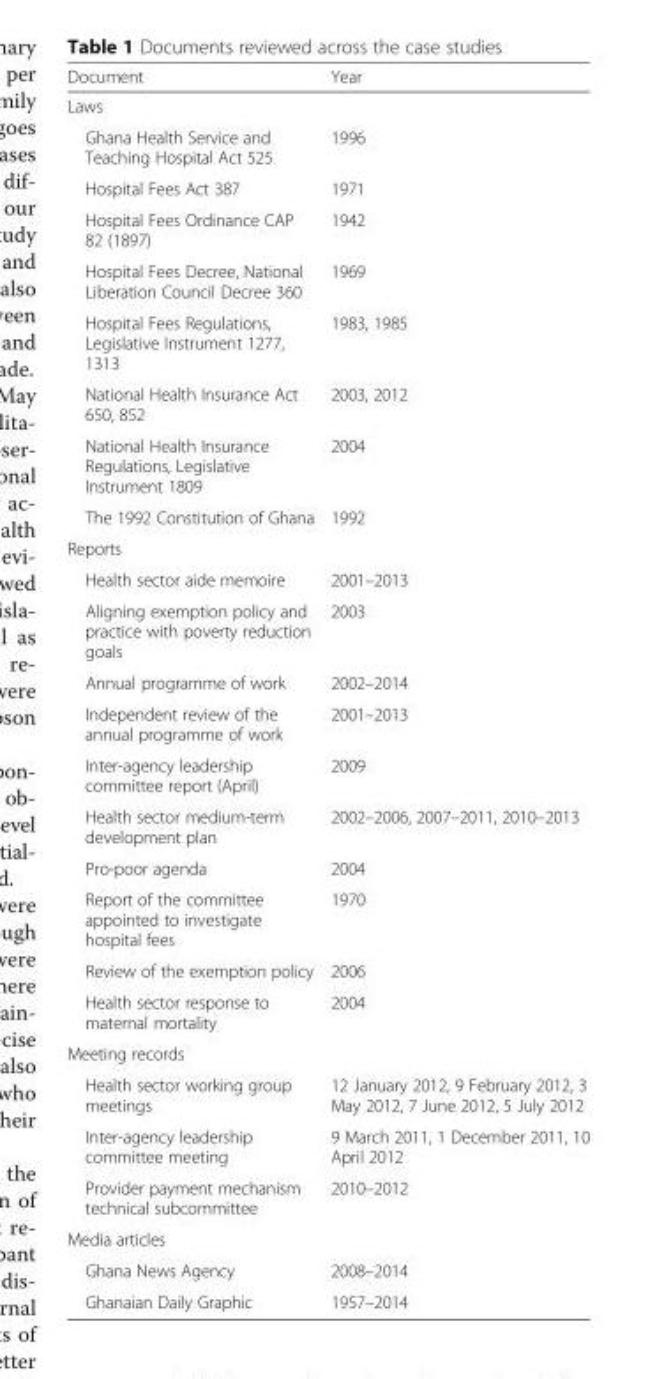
<table><thead><tr><td>Document</td><td>Year</td></tr></thead><tbody><tr><td colspan="2">Laws</td></tr><tr><td>Ghana Health Service and Teaching Hospital Act 525</td><td>1996</td></tr><tr><td>Hospital Fees Act 387</td><td>1971</td></tr><tr><td>Hospital Fees Ordinance CAP 82 (1897)</td><td>1942</td></tr><tr><td>Hospital Fees Decree, National Liberation Council Decree 360</td><td>1969</td></tr><tr><td>Hospital Fees Regulations, Legislative Instrument 1277, 1313</td><td>1983, 1985</td></tr><tr><td>National Health Insurance Act 650, 852</td><td>2003, 2012</td></tr><tr><td>National Health Insurance Regulations, Legislative Instrument 1809</td><td>2004</td></tr><tr><td>The 1992 Constitution of Ghana</td><td>1992</td></tr><tr><td colspan="2">Reports</td></tr><tr><td>Health sector aide memoire</td><td>2001–2013</td></tr><tr><td>Aligning exemption policy and practice with poverty reduction goals</td><td>2003</td></tr><tr><td>Annual programme of work</td><td>2002–2014</td></tr><tr><td>Independent review of the annual programme of work</td><td>2001–2013</td></tr><tr><td>Inter-agency leadership committee report (April)</td><td>2009</td></tr><tr><td>Health sector medium-term development plan</td><td>2002–2006, 2007–2011, 2010–2013</td></tr><tr><td>Pro-poor agenda</td><td>2004</td></tr><tr><td>Report of the committee appointed to investigate hospital fees</td><td>1970</td></tr><tr><td>Review of the exemption policy</td><td>2006</td></tr><tr><td>Health sector response to maternal mortality</td><td>2004</td></tr><tr><td colspan="2">Meeting records</td></tr><tr><td>Health sector working group meetings</td><td>12 January 2012, 9 February 2012, 3 May 2012, 7 June 2012, 5 July 2012</td></tr><tr><td>Inter-agency leadership committee meeting</td><td>9 March 2011, 1 December 2011, 10 April 2012</td></tr><tr><td>Provider payment mechanism technical subcommittee</td><td>2010–2012</td></tr><tr><td colspan="2">Media articles</td></tr><tr><td>Ghana News Agency</td><td>2008–2014</td></tr><tr><td>Ghanaian Daily Graphic</td><td>1957–2014</td></tr></tbody></table>